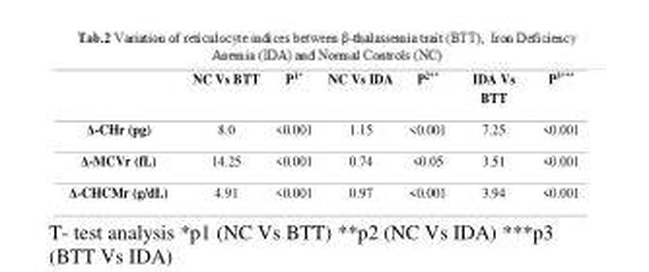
<table><thead><tr><td></td><td>NC Vs BTT</td><td>P<sup>1</sup>*</td><td>NC Vs IDA</td><td>P<sup>2</sup>**</td><td>IDA Vs BTT</td><td>P<sup>3</sup>***</td></tr></thead><tbody><tr><td>Δ-CHr (pg)</td><td>8.0</td><td>&lt;0.001</td><td>1.15</td><td>&lt;0.001</td><td>7.25</td><td>&lt;0.001</td></tr><tr><td>Δ-MCVr (fL)</td><td>14.25</td><td>&lt;0.001</td><td>0.74</td><td>&lt;0.05</td><td>3.51</td><td>&lt;0.001</td></tr><tr><td>Δ-CHCMr (g/dL)</td><td>4.91</td><td>&lt;0.001</td><td>0.97</td><td>&lt;0.001</td><td>3.94</td><td>&lt;0.001</td></tr></tbody></table>